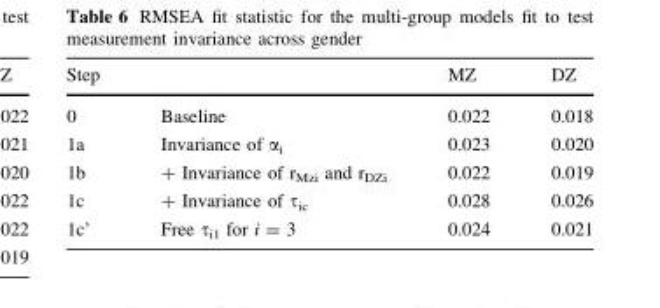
<table><thead><tr><td>Step</td><td></td><td>MZ</td><td>DZ</td></tr></thead><tbody><tr><td>0</td><td>Baseline</td><td>0.022</td><td>0.018</td></tr><tr><td>1a</td><td>Invariance of α<sub>i</sub></td><td>0.023</td><td>0.020</td></tr><tr><td>1b</td><td>+ Invariance of r<sub>Mzi</sub> and r<sub>DZi</sub></td><td>0.022</td><td>0.019</td></tr><tr><td>1c</td><td>+ Invariance of τ<sub>ic</sub></td><td>0.028</td><td>0.026</td></tr><tr><td>1c’</td><td>Free τ<sub>i1</sub> for i = 3</td><td>0.024</td><td>0.021</td></tr></tbody></table>